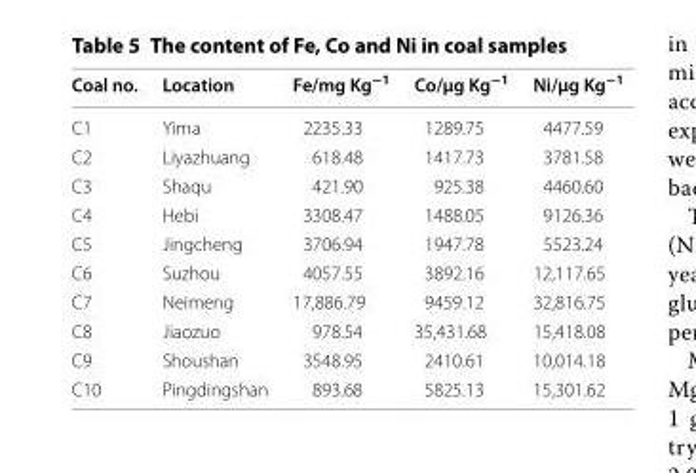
<table><thead><tr><td>Coal no.</td><td>Location</td><td>Fe/mg Kg<sup>−1</sup></td><td>Co/μg Kg<sup>−1</sup></td><td>Ni/μg Kg<sup>−1</sup></td></tr></thead><tbody><tr><td>C1</td><td>Yima</td><td>2235.33</td><td>1289.75</td><td>4477.59</td></tr><tr><td>C2</td><td>Liyazhuang</td><td>618.48</td><td>1417.73</td><td>3781.58</td></tr><tr><td>C3</td><td>Shaqu</td><td>421.90</td><td>925.38</td><td>4460.60</td></tr><tr><td>C4</td><td>Hebi</td><td>3308.47</td><td>1488.05</td><td>9126.36</td></tr><tr><td>C5</td><td>Jingcheng</td><td>3706.94</td><td>1947.78</td><td>5523.24</td></tr><tr><td>C6</td><td>Suzhou</td><td>4057.55</td><td>3892.16</td><td>12,117.65</td></tr><tr><td>C7</td><td>Neimeng</td><td>17,886.79</td><td>9459.12</td><td>32,816.75</td></tr><tr><td>C8</td><td>Jiaozuo</td><td>978.54</td><td>35,431.68</td><td>15,418.08</td></tr><tr><td>C9</td><td>Shoushan</td><td>3548.95</td><td>2410.61</td><td>10,014.18</td></tr><tr><td>C10</td><td>Pingdingshan</td><td>893.68</td><td>5825.13</td><td>15,301.62</td></tr></tbody></table>